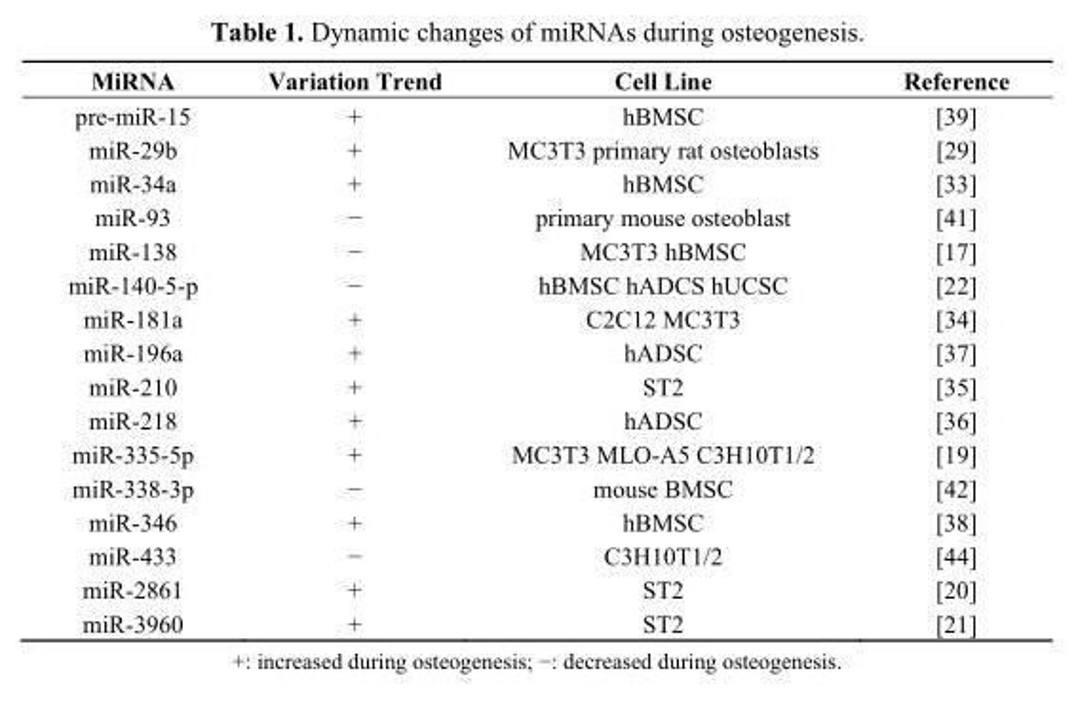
<table><thead><tr><td>MiRNA</td><td>Variation Trend</td><td>Cell Line</td><td>Reference</td></tr></thead><tbody><tr><td>pre-miR-15</td><td>+</td><td>hBMSC</td><td>[39]</td></tr><tr><td>miR-29b</td><td>+</td><td>MC3T3 primary rat osteoblasts</td><td>[29]</td></tr><tr><td>miR-34a</td><td>+</td><td>hBMSC</td><td>[33]</td></tr><tr><td>miR-93</td><td>−</td><td>primary mouse osteoblast</td><td>[41]</td></tr><tr><td>miR-138</td><td>−</td><td>MC3T3 hBMSC</td><td>[17]</td></tr><tr><td>miR-140-5-p</td><td>−</td><td>hBMSC hADCS hUCSC</td><td>[22]</td></tr><tr><td>miR-181a</td><td>+</td><td>C2C12 MC3T3</td><td>[34]</td></tr><tr><td>miR-196a</td><td>+</td><td>hADSC</td><td>[37]</td></tr><tr><td>miR-210</td><td>+</td><td>ST2</td><td>[35]</td></tr><tr><td>miR-218</td><td>+</td><td>hADSC</td><td>[36]</td></tr><tr><td>miR-335-5p</td><td>+</td><td>MC3T3 MLO-A5 C3H10T1/2</td><td>[19]</td></tr><tr><td>miR-338-3p</td><td>−</td><td>mouse BMSC</td><td>[42]</td></tr><tr><td>miR-346</td><td>+</td><td>hBMSC</td><td>[38]</td></tr><tr><td>miR-433</td><td>−</td><td>C3H10T1/2</td><td>[44]</td></tr><tr><td>miR-2861</td><td>+</td><td>ST2</td><td>[20]</td></tr><tr><td>miR-3960</td><td>+</td><td>ST2</td><td>[21]</td></tr></tbody></table>